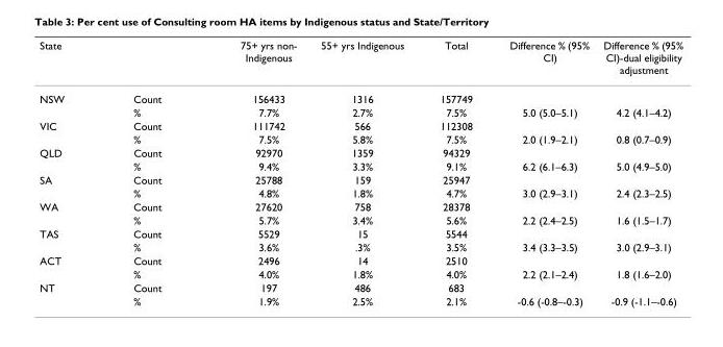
<table><thead><tr><td>State</td><td></td><td>75+ yrs non- Indigenous</td><td>55+ yrs Indigenous</td><td>Total</td><td>Difference % (95% CI)</td><td>Difference % (95% CI)-dual eligibility adjustment</td></tr></thead><tbody><tr><td rowspan="2">NSW</td><td>Count</td><td>156433</td><td>1316</td><td>157749</td><td></td><td></td></tr><tr><td>%</td><td>7.7%</td><td>2.7%</td><td>7.5%</td><td>5.0 (5.0–5.1)</td><td>4.2 (4.1–4.2)</td></tr><tr><td rowspan="2">VIC</td><td>Count</td><td>111742</td><td>566</td><td>112308</td><td></td><td></td></tr><tr><td>%</td><td>7.5%</td><td>5.8%</td><td>7.5%</td><td>2.0 (1.9–2.1)</td><td>0.8 (0.7–0.9)</td></tr><tr><td rowspan="2">QLD</td><td>Count</td><td>92970</td><td>1359</td><td>94329</td><td></td><td></td></tr><tr><td>%</td><td>9.4%</td><td>3.3%</td><td>9.1%</td><td>6.2 (6.1–6.3)</td><td>5.0 (4.9–5.0)</td></tr><tr><td rowspan="2">SA</td><td>Count</td><td>25788</td><td>159</td><td>25947</td><td></td><td></td></tr><tr><td>%</td><td>4.8%</td><td>1.8%</td><td>4.7%</td><td>3.0 (2.9–3.1)</td><td>2.4 (2.3–2.5)</td></tr><tr><td rowspan="2">WA</td><td>Count</td><td>27620</td><td>758</td><td>28378</td><td></td><td></td></tr><tr><td>%</td><td>5.7%</td><td>3.4%</td><td>5.6%</td><td>2.2 (2.4–2.5)</td><td>1.6 (1.5–1.7)</td></tr><tr><td rowspan="2">TAS</td><td>Count</td><td>5529</td><td>15</td><td>5544</td><td></td><td></td></tr><tr><td>%</td><td>3.6%</td><td>.3%</td><td>3.5%</td><td>3.4 (3.3–3.5)</td><td>3.0 (2.9–3.1)</td></tr><tr><td rowspan="2">ACT</td><td>Count</td><td>2496</td><td>14</td><td>2510</td><td></td><td></td></tr><tr><td>%</td><td>4.0%</td><td>1.8%</td><td>4.0%</td><td>2.2 (2.1–2.4)</td><td>1.8 (1.6–2.0)</td></tr><tr><td rowspan="2">NT</td><td>Count</td><td>197</td><td>486</td><td>683</td><td></td><td></td></tr><tr><td>%</td><td>1.9%</td><td>2.5%</td><td>2.1%</td><td>-0.6 (-0.8–-0.3)</td><td>-0.9 (-1.1–-0.6)</td></tr></tbody></table>